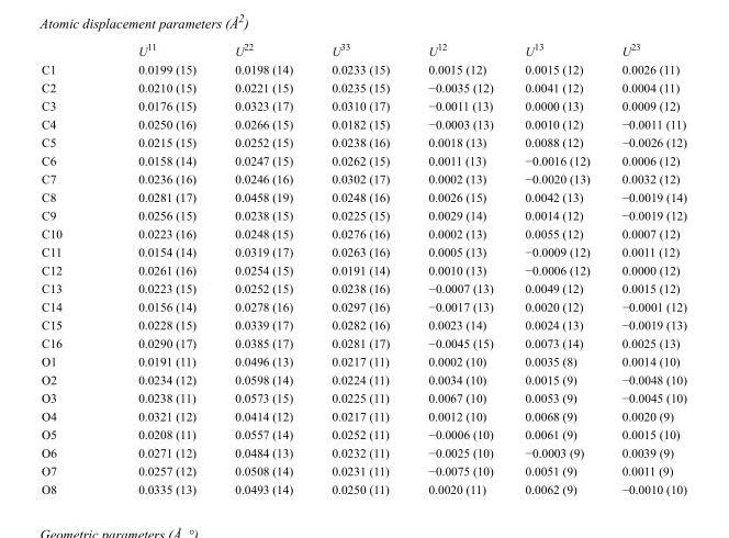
<table><thead><tr><td></td><td>U<sup>11</sup></td><td>U<sup>22</sup></td><td>U<sup>33</sup></td><td>U<sup>12</sup></td><td>U<sup>13</sup></td><td>U<sup>23</sup></td></tr></thead><tbody><tr><td>C1</td><td>0.0199 (15)</td><td>0.0198 (14)</td><td>0.0233 (15)</td><td>0.0015 (12)</td><td>0.0015 (12)</td><td>0.0026 (11)</td></tr><tr><td>C2</td><td>0.0210 (15)</td><td>0.0221 (15)</td><td>0.0235 (15)</td><td>−0.0035 (12)</td><td>0.0041 (12)</td><td>0.0004 (11)</td></tr><tr><td>C3</td><td>0.0176 (15)</td><td>0.0323 (17)</td><td>0.0310 (17)</td><td>−0.0011 (13)</td><td>0.0000 (13)</td><td>0.0009 (12)</td></tr><tr><td>C4</td><td>0.0250 (16)</td><td>0.0266 (15)</td><td>0.0182 (15)</td><td>−0.0003 (13)</td><td>0.0010 (12)</td><td>−0.0011 (11)</td></tr><tr><td>C5</td><td>0.0215 (15)</td><td>0.0252 (15)</td><td>0.0238 (16)</td><td>0.0018 (13)</td><td>0.0088 (12)</td><td>−0.0026 (12)</td></tr><tr><td>C6</td><td>0.0158 (14)</td><td>0.0247 (15)</td><td>0.0262 (15)</td><td>0.0011 (13)</td><td>−0.0016 (12)</td><td>0.0006 (12)</td></tr><tr><td>C7</td><td>0.0236 (16)</td><td>0.0246 (16)</td><td>0.0302 (17)</td><td>0.0002 (13)</td><td>−0.0020 (13)</td><td>0.0032 (12)</td></tr><tr><td>C8</td><td>0.0281 (17)</td><td>0.0458 (19)</td><td>0.0248 (16)</td><td>0.0026 (15)</td><td>0.0042 (13)</td><td>−0.0019 (14)</td></tr><tr><td>C9</td><td>0.0256 (15)</td><td>0.0238 (15)</td><td>0.0225 (15)</td><td>0.0029 (14)</td><td>0.0014 (12)</td><td>−0.0019 (12)</td></tr><tr><td>C10</td><td>0.0223 (16)</td><td>0.0248 (15)</td><td>0.0276 (16)</td><td>0.0002 (13)</td><td>0.0055 (12)</td><td>0.0007 (12)</td></tr><tr><td>C11</td><td>0.0154 (14)</td><td>0.0319 (17)</td><td>0.0263 (16)</td><td>0.0005 (13)</td><td>−0.0009 (12)</td><td>0.0011 (12)</td></tr><tr><td>C12</td><td>0.0261 (16)</td><td>0.0254 (15)</td><td>0.0191 (14)</td><td>0.0010 (13)</td><td>−0.0006 (12)</td><td>0.0000 (12)</td></tr><tr><td>C13</td><td>0.0223 (15)</td><td>0.0252 (15)</td><td>0.0238 (16)</td><td>−0.0007 (13)</td><td>0.0049 (12)</td><td>0.0015 (12)</td></tr><tr><td>C14</td><td>0.0156 (14)</td><td>0.0278 (16)</td><td>0.0297 (16)</td><td>−0.0017 (13)</td><td>0.0020 (12)</td><td>−0.0001 (12)</td></tr><tr><td>C15</td><td>0.0228 (15)</td><td>0.0339 (17)</td><td>0.0282 (16)</td><td>0.0023 (14)</td><td>0.0024 (13)</td><td>−0.0019 (13)</td></tr><tr><td>C16</td><td>0.0290 (17)</td><td>0.0385 (17)</td><td>0.0281 (17)</td><td>−0.0045 (15)</td><td>0.0073 (14)</td><td>0.0025 (13)</td></tr><tr><td>O1</td><td>0.0191 (11)</td><td>0.0496 (13)</td><td>0.0217 (11)</td><td>0.0002 (10)</td><td>0.0035 (8)</td><td>0.0014 (10)</td></tr><tr><td>O2</td><td>0.0234 (12)</td><td>0.0598 (14)</td><td>0.0224 (11)</td><td>0.0034 (10)</td><td>0.0015 (9)</td><td>−0.0048 (10)</td></tr><tr><td>O3</td><td>0.0238 (11)</td><td>0.0573 (15)</td><td>0.0225 (11)</td><td>0.0067 (10)</td><td>0.0053 (9)</td><td>−0.0045 (10)</td></tr><tr><td>O4</td><td>0.0321 (12)</td><td>0.0414 (12)</td><td>0.0217 (11)</td><td>0.0012 (10)</td><td>0.0068 (9)</td><td>0.0020 (9)</td></tr><tr><td>O5</td><td>0.0208 (11)</td><td>0.0557 (14)</td><td>0.0252 (11)</td><td>−0.0006 (10)</td><td>0.0061 (9)</td><td>0.0015 (10)</td></tr><tr><td>O6</td><td>0.0271 (12)</td><td>0.0484 (13)</td><td>0.0232 (11)</td><td>−0.0025 (10)</td><td>−0.0003 (9)</td><td>0.0039 (9)</td></tr><tr><td>O7</td><td>0.0257 (12)</td><td>0.0508 (14)</td><td>0.0231 (11)</td><td>−0.0075 (10)</td><td>0.0051 (9)</td><td>0.0011 (9)</td></tr><tr><td>O8</td><td>0.0335 (13)</td><td>0.0493 (14)</td><td>0.0250 (11)</td><td>0.0020 (11)</td><td>0.0062 (9)</td><td>−0.0010 (10)</td></tr></tbody></table>